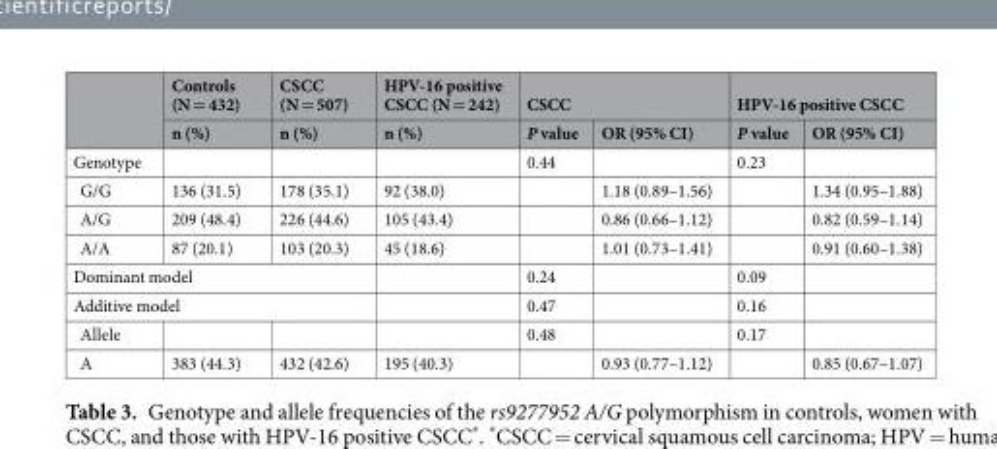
<table><thead><tr><td rowspan="2"></td><td rowspan="2">Controls (N = 432) n (%)</td><td rowspan="2">CSCC (N = 507) n (%)</td><td rowspan="2">HPV-16 positive CSCC (N = 242) n (%)</td><td colspan="2">CSCC</td><td colspan="2">HPV-16 positive CSCC</td></tr><tr><td>P value</td><td>OR (95% CI)</td><td>P value</td><td>OR (95% CI)</td></tr></thead><tbody><tr><td>Genotype</td><td></td><td></td><td></td><td>0.44</td><td></td><td>0.23</td><td></td></tr><tr><td>G/G</td><td>136 (31.5)</td><td>178 (35.1)</td><td>92 (38.0)</td><td></td><td>1.18 (0.89–1.56)</td><td></td><td>1.34 (0.95–1.88)</td></tr><tr><td>A/G</td><td>209 (48.4)</td><td>226 (44.6)</td><td>105 (43.4)</td><td></td><td>0.86 (0.66–1.12)</td><td></td><td>0.82 (0.59–1.14)</td></tr><tr><td>A/A</td><td>87 (20.1)</td><td>103 (20.3)</td><td>45 (18.6)</td><td></td><td>1.01 (0.73–1.41)</td><td></td><td>0.91 (0.60–1.38)</td></tr><tr><td colspan="3">Dominant model</td><td></td><td>0.24</td><td></td><td>0.09</td><td></td></tr><tr><td colspan="3">Additive model</td><td></td><td>0.47</td><td></td><td>0.16</td><td></td></tr><tr><td>Allele</td><td></td><td></td><td></td><td>0.48</td><td></td><td>0.17</td><td></td></tr><tr><td>A</td><td>383 (44.3)</td><td>432 (42.6)</td><td>195 (40.3)</td><td></td><td>0.93 (0.77–1.12)</td><td></td><td>0.85 (0.67–1.07)</td></tr></tbody></table>